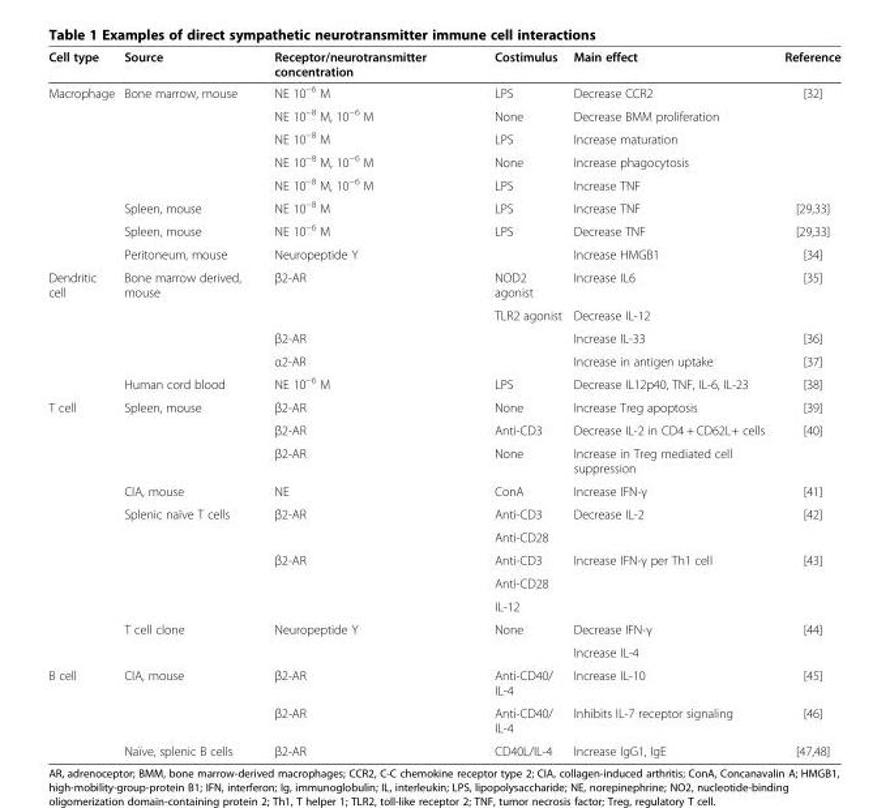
<table><thead><tr><td>Cell type</td><td>Source</td><td>Receptor/neurotransmitter concentration</td><td>Costimulus</td><td>Main effect</td><td>Reference</td></tr></thead><tbody><tr><td rowspan="8">Macrophage</td><td rowspan="5">Bone marrow, mouse</td><td>NE 10<sup>−6</sup> M</td><td>LPS</td><td>Decrease CCR2</td><td rowspan="5">[32]</td></tr><tr><td>NE 10<sup>−8</sup> M, 10<sup>−6</sup> M</td><td>None</td><td>Decrease BMM proliferation</td></tr><tr><td>NE 10<sup>−8</sup> M</td><td>LPS</td><td>Increase maturation</td></tr><tr><td>NE 10<sup>−8</sup> M, 10<sup>−6</sup> M</td><td>None</td><td>Increase phagocytosis</td></tr><tr><td>NE 10<sup>−8</sup> M, 10<sup>−6</sup> M</td><td>LPS</td><td>Increase TNF</td></tr><tr><td>Spleen, mouse</td><td>NE 10<sup>−8</sup> M</td><td>LPS</td><td>Increase TNF</td><td>[29,33]</td></tr><tr><td>Spleen, mouse</td><td>NE 10<sup>−6</sup> M</td><td>LPS</td><td>Decrease TNF</td><td>[29,33]</td></tr><tr><td>Peritoneum, mouse</td><td>Neuropeptide Y</td><td></td><td>Increase HMGB1</td><td>[34]</td></tr><tr><td rowspan="5">Dendritic cell</td><td rowspan="2">Bone marrow derived, mouse</td><td>β2-AR</td><td>NOD2 agonist</td><td>Increase IL6</td><td rowspan="2">[35]</td></tr><tr><td></td><td>TLR2 agonist</td><td>Decrease IL-12</td></tr><tr><td></td><td>β2-AR</td><td></td><td>Increase IL-33</td><td>[36]</td></tr><tr><td></td><td>α2-AR</td><td></td><td>Increase in antigen uptake</td><td>[37]</td></tr><tr><td>Human cord blood</td><td>NE 10<sup>−6</sup> M</td><td>LPS</td><td>Decrease IL12p40, TNF, IL-6, IL-23</td><td>[38]</td></tr><tr><td rowspan="11">T cell</td><td rowspan="3">Spleen, mouse</td><td>β2-AR</td><td>None</td><td>Increase Treg apoptosis</td><td>[39]</td></tr><tr><td>β2-AR</td><td>Anti-CD3</td><td>Decrease IL-2 in CD4 + CD62L+ cells</td><td rowspan="2">[40]</td></tr><tr><td>β2-AR</td><td>None</td><td>Increase in Treg mediated cell suppression</td></tr><tr><td>CIA, mouse</td><td>NE</td><td>ConA</td><td>Increase IFN-γ</td><td>[41]</td></tr><tr><td rowspan="2">Splenic naïve T cells</td><td rowspan="2">β2-AR</td><td>Anti-CD3</td><td rowspan="2">Decrease IL-2</td><td rowspan="2">[42]</td></tr><tr><td>Anti-CD28</td></tr><tr><td rowspan="3"></td><td rowspan="3">β2-AR</td><td>Anti-CD3</td><td rowspan="3">Increase IFN-γ per Th1 cell</td><td rowspan="3">[43]</td></tr><tr><td>Anti-CD28</td></tr><tr><td>IL-12</td></tr><tr><td rowspan="2">T cell clone</td><td rowspan="2">Neuropeptide Y</td><td rowspan="2">None</td><td>Decrease IFN-γ</td><td rowspan="2">[44]</td></tr><tr><td>Increase IL-4</td></tr><tr><td rowspan="3">B cell</td><td>CIA, mouse</td><td>β2-AR</td><td>Anti-CD40/ IL-4</td><td>Increase IL-10</td><td>[45]</td></tr><tr><td></td><td>β2-AR</td><td>Anti-CD40/ IL-4</td><td>Inhibits IL-7 receptor signaling</td><td>[46]</td></tr><tr><td>Naïve, splenic B cells</td><td>β2-AR</td><td>CD40L/IL-4</td><td>Increase IgG1, IgE</td><td>[47,48]</td></tr></tbody></table>